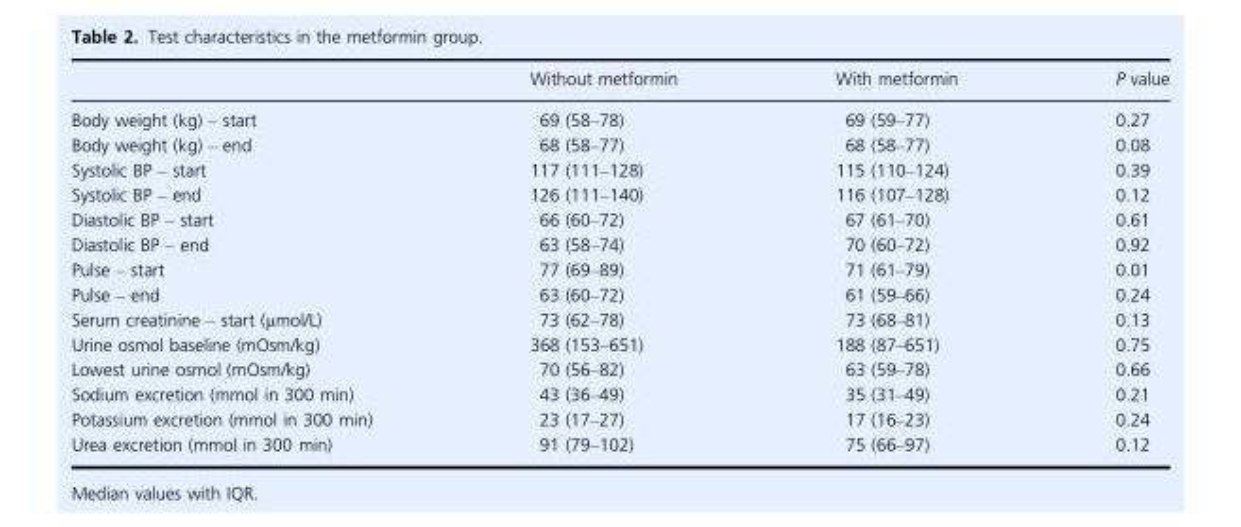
<table><thead><tr><td></td><td>Without metformin</td><td>With metformin</td><td>P value</td></tr></thead><tbody><tr><td>Body weight (kg) – start</td><td>69 (58–78)</td><td>69 (59–77)</td><td>0.27</td></tr><tr><td>Body weight (kg) – end</td><td>68 (58–77)</td><td>68 (58–77)</td><td>0.08</td></tr><tr><td>Systolic BP – start</td><td>117 (111–128)</td><td>115 (110–124)</td><td>0.39</td></tr><tr><td>Systolic BP – end</td><td>126 (111–140)</td><td>116 (107–128)</td><td>0.12</td></tr><tr><td>Diastolic BP – start</td><td>66 (60–72)</td><td>67 (61–70)</td><td>0.61</td></tr><tr><td>Diastolic BP – end</td><td>63 (58–74)</td><td>70 (60–72)</td><td>0.92</td></tr><tr><td>Pulse – start</td><td>77 (69–89)</td><td>71 (61–79)</td><td>0.01</td></tr><tr><td>Pulse – end</td><td>63 (60–72)</td><td>61 (59–66)</td><td>0.24</td></tr><tr><td>Serum creatinine – start (μmol/L)</td><td>73 (62–78)</td><td>73 (68–81)</td><td>0.13</td></tr><tr><td>Urine osmol baseline (mOsm/kg)</td><td>368 (153–651)</td><td>188 (87–651)</td><td>0.75</td></tr><tr><td>Lowest urine osmol (mOsm/kg)</td><td>70 (56–82)</td><td>63 (59–78)</td><td>0.66</td></tr><tr><td>Sodium excretion (mmol in 300 min)</td><td>43 (36–49)</td><td>35 (31–49)</td><td>0.21</td></tr><tr><td>Potassium excretion (mmol in 300 min)</td><td>23 (17–27)</td><td>17 (16–23)</td><td>0.24</td></tr><tr><td>Urea excretion (mmol in 300 min)</td><td>91 (79–102)</td><td>75 (66–97)</td><td>0.12</td></tr></tbody></table>